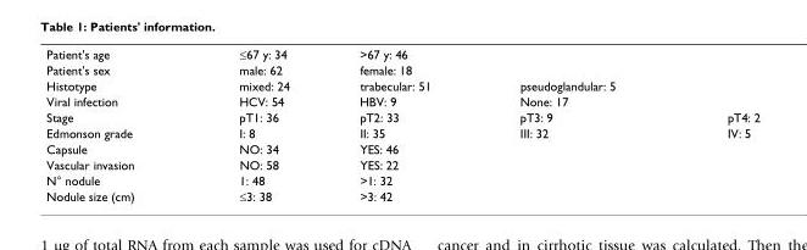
<table><tbody><tr><td>Patient&#x27;s age</td><td>≤67 y: 34</td><td>&gt;67 y: 46</td><td></td><td></td></tr><tr><td>Patient&#x27;s sex</td><td>male: 62</td><td>female: 18</td><td></td><td></td></tr><tr><td>Histotype</td><td>mixed: 24</td><td>trabecular: 51</td><td>pseudoglandular: 5</td><td></td></tr><tr><td>Viral infection</td><td>HCV: 54</td><td>HBV: 9</td><td>None: 17</td><td></td></tr><tr><td>Stage</td><td>pT1: 36</td><td>pT2: 33</td><td>pT3: 9</td><td>pT4: 2</td></tr><tr><td>Edmonson grade</td><td>I: 8</td><td>II: 35</td><td>III: 32</td><td>IV: 5</td></tr><tr><td>Capsule</td><td>NO: 34</td><td>YES: 46</td><td></td><td></td></tr><tr><td>Vascular invasion</td><td>NO: 58</td><td>YES: 22</td><td></td><td></td></tr><tr><td>N° nodule</td><td>1: 48</td><td>&gt;1: 32</td><td></td><td></td></tr><tr><td>Nodule size (cm)</td><td>≤3: 38</td><td>&gt;3: 42</td><td></td><td></td></tr></tbody></table>